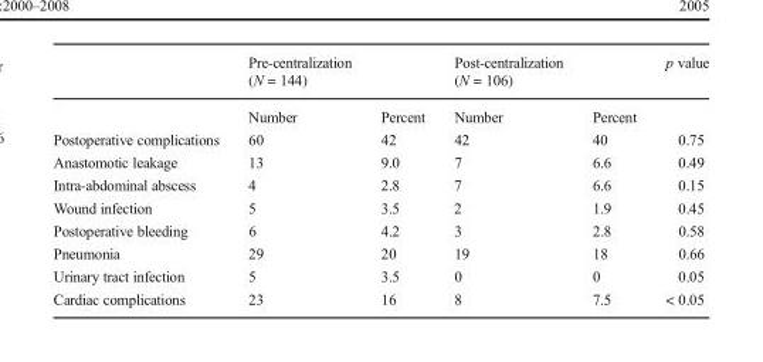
<table><thead><tr><td></td><td>Pre-centralization (N = 144)</td><td></td><td>Post-centralization (N = 106)</td><td></td><td>p value</td></tr></thead><tbody><tr><td></td><td>Number</td><td>Percent</td><td>Number</td><td>Percent</td><td></td></tr><tr><td>Postoperative complications</td><td>60</td><td>42</td><td>42</td><td>40</td><td>0.75</td></tr><tr><td>Anastomotic leakage</td><td>13</td><td>9.0</td><td>7</td><td>6.6</td><td>0.49</td></tr><tr><td>Intra-abdominal abscess</td><td>4</td><td>2.8</td><td>7</td><td>6.6</td><td>0.15</td></tr><tr><td>Wound infection</td><td>5</td><td>3.5</td><td>2</td><td>1.9</td><td>0.45</td></tr><tr><td>Postoperative bleeding</td><td>6</td><td>4.2</td><td>3</td><td>2.8</td><td>0.58</td></tr><tr><td>Pneumonia</td><td>29</td><td>20</td><td>19</td><td>18</td><td>0.66</td></tr><tr><td>Urinary tract infection</td><td>5</td><td>3.5</td><td>0</td><td>0</td><td>0.05</td></tr><tr><td>Cardiac complications</td><td>23</td><td>16</td><td>8</td><td>7.5</td><td>&lt; 0.05</td></tr></tbody></table>